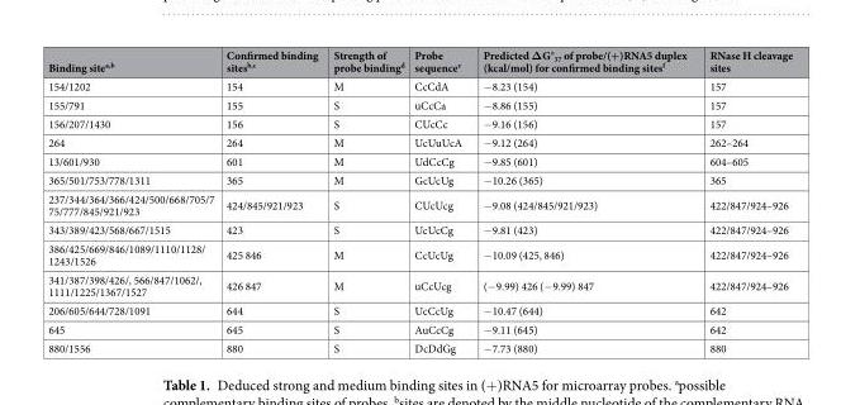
<table><thead><tr><td>Binding site<sup>a,b</sup></td><td>Confirmed binding sites<sup>b,c</sup></td><td>Strength of probe binding<sup>d</sup></td><td>Probe sequence<sup>e</sup></td><td>Predicted ΔG°<sub>37</sub> of probe/(+)RNA5 duplex (kcal/mol) for confirmed binding sites<sup>f</sup></td><td>RNase H cleavage sites</td></tr></thead><tbody><tr><td>154/1202</td><td>154</td><td>M</td><td>CcCdA</td><td>−8.23 (154)</td><td>157</td></tr><tr><td>155/791</td><td>155</td><td>S</td><td>uCcCa</td><td>−8.86 (155)</td><td>157</td></tr><tr><td>156/207/1430</td><td>156</td><td>S</td><td>CUcCc</td><td>−9.16 (156)</td><td>157</td></tr><tr><td>264</td><td>264</td><td>M</td><td>UcUuUcA</td><td>−9.12 (264)</td><td>262–264</td></tr><tr><td>13/601/930</td><td>601</td><td>M</td><td>UdCcCg</td><td>−9.85 (601)</td><td>604–605</td></tr><tr><td>365/501/753/778/1311</td><td>365</td><td>M</td><td>GcUcUg</td><td>−10.26 (365)</td><td>365</td></tr><tr><td>237/344/364/366/424/500/668/705/7 75/777/845/921/923</td><td>424/845/921/923</td><td>S</td><td>CUcUcg</td><td>−9.08 (424/845/921/923)</td><td>422/847/924–926</td></tr><tr><td>343/389/423/568/667/1515</td><td>423</td><td>S</td><td>UcUcCg</td><td>−9.81 (423)</td><td>422/847/924–926</td></tr><tr><td>386/425/669/846/1089/1110/1128/ 1243/1526</td><td>425 846</td><td>M</td><td>CcUcUg</td><td>−10.09 (425, 846)</td><td>422/847/924–926</td></tr><tr><td>341/387/398/426/, 566/847/1062/, 1111/1225/1367/1527</td><td>426 847</td><td>M</td><td>uCcUcg</td><td>(−9.99) 426 (−9.99) 847</td><td>422/847/924–926</td></tr><tr><td>206/605/644/728/1091</td><td>644</td><td>S</td><td>UcCcUg</td><td>−10.47 (644)</td><td>642</td></tr><tr><td>645</td><td>645</td><td>S</td><td>AuCcCg</td><td>−9.11 (645)</td><td>642</td></tr><tr><td>880/1556</td><td>880</td><td>S</td><td>DcDdGg</td><td>−7.73 (880)</td><td>880</td></tr></tbody></table>